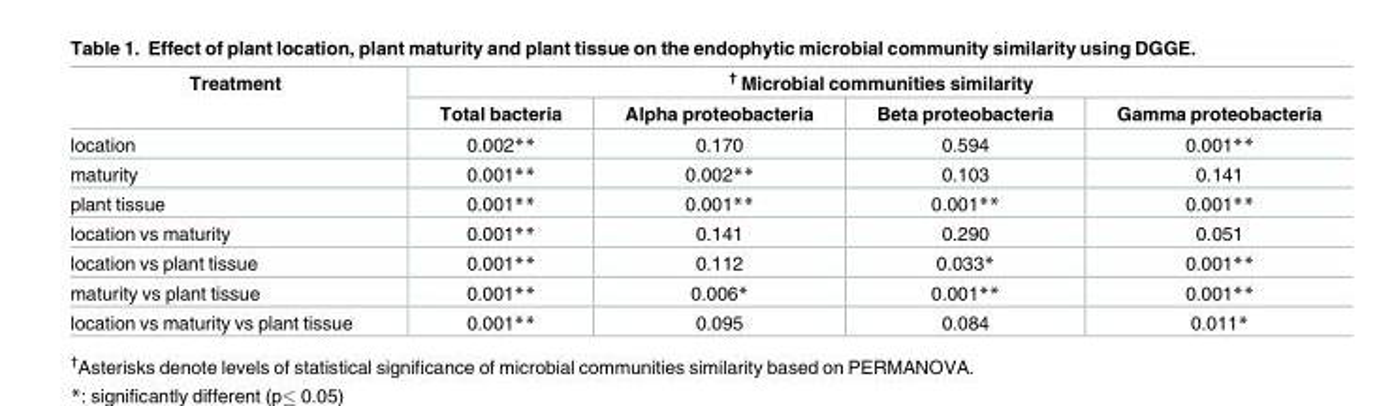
<table><thead><tr><td rowspan="2">Treatment</td><td colspan="4"><sup>†</sup> Microbial communities similarity</td></tr><tr><td>Total bacteria</td><td>Alpha proteobacteria</td><td>Beta proteobacteria</td><td>Gamma proteobacteria</td></tr></thead><tbody><tr><td>location</td><td>0.002**</td><td>0.170</td><td>0.594</td><td>0.001**</td></tr><tr><td>maturity</td><td>0.001**</td><td>0.002**</td><td>0.103</td><td>0.141</td></tr><tr><td>plant tissue</td><td>0.001**</td><td>0.001**</td><td>0.001**</td><td>0.001**</td></tr><tr><td>location vs maturity</td><td>0.001**</td><td>0.141</td><td>0.290</td><td>0.051</td></tr><tr><td>location vs plant tissue</td><td>0.001**</td><td>0.112</td><td>0.033*</td><td>0.001**</td></tr><tr><td>maturity vs plant tissue</td><td>0.001**</td><td>0.006*</td><td>0.001**</td><td>0.001**</td></tr><tr><td>location vs maturity vs plant tissue</td><td>0.001**</td><td>0.095</td><td>0.084</td><td>0.011*</td></tr></tbody></table>